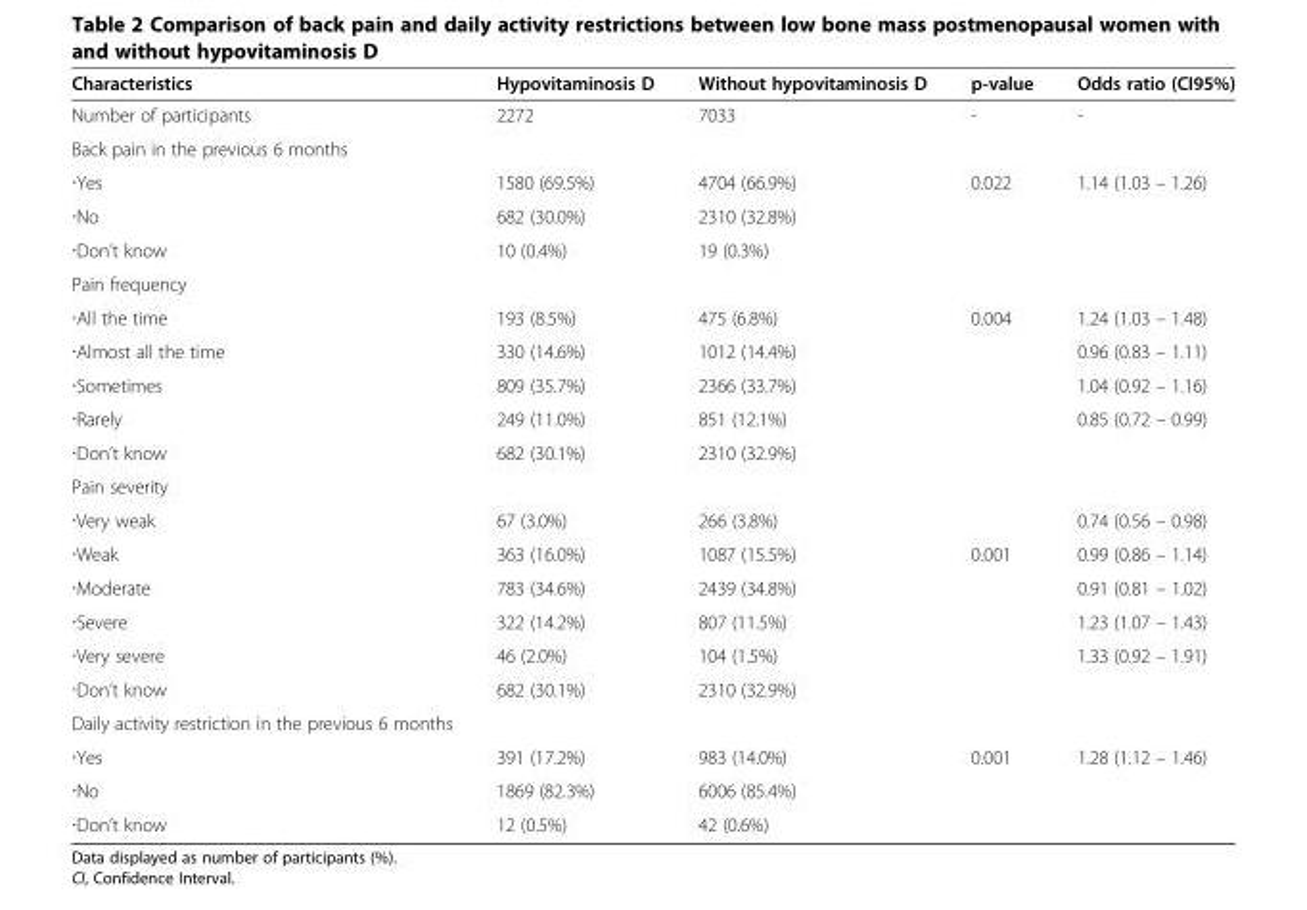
<table><thead><tr><td>Characteristics</td><td>Hypovitaminosis D</td><td>Without hypovitaminosis D</td><td>p-value</td><td>Odds ratio (CI95%)</td></tr></thead><tbody><tr><td>Number of participants</td><td>2272</td><td>7033</td><td>-</td><td>-</td></tr><tr><td colspan="5">Back pain in the previous 6 months</td></tr><tr><td>∙Yes</td><td>1580 (69.5%)</td><td>4704 (66.9%)</td><td>0.022</td><td>1.14 (1.03 – 1.26)</td></tr><tr><td>∙No</td><td>682 (30.0%)</td><td>2310 (32.8%)</td><td></td><td></td></tr><tr><td>∙Don’t know</td><td>10 (0.4%)</td><td>19 (0.3%)</td><td></td><td></td></tr><tr><td colspan="5">Pain frequency</td></tr><tr><td>∙All the time</td><td>193 (8.5%)</td><td>475 (6.8%)</td><td>0.004</td><td>1.24 (1.03 – 1.48)</td></tr><tr><td>∙Almost all the time</td><td>330 (14.6%)</td><td>1012 (14.4%)</td><td></td><td>0.96 (0.83 – 1.11)</td></tr><tr><td>∙Sometimes</td><td>809 (35.7%)</td><td>2366 (33.7%)</td><td></td><td>1.04 (0.92 – 1.16)</td></tr><tr><td>∙Rarely</td><td>249 (11.0%)</td><td>851 (12.1%)</td><td></td><td>0.85 (0.72 – 0.99)</td></tr><tr><td>∙Don’t know</td><td>682 (30.1%)</td><td>2310 (32.9%)</td><td></td><td></td></tr><tr><td colspan="5">Pain severity</td></tr><tr><td>∙Very weak</td><td>67 (3.0%)</td><td>266 (3.8%)</td><td></td><td>0.74 (0.56 – 0.98)</td></tr><tr><td>∙Weak</td><td>363 (16.0%)</td><td>1087 (15.5%)</td><td>0.001</td><td>0.99 (0.86 – 1.14)</td></tr><tr><td>∙Moderate</td><td>783 (34.6%)</td><td>2439 (34.8%)</td><td></td><td>0.91 (0.81 – 1.02)</td></tr><tr><td>∙Severe</td><td>322 (14.2%)</td><td>807 (11.5%)</td><td></td><td>1.23 (1.07 – 1.43)</td></tr><tr><td>∙Very severe</td><td>46 (2.0%)</td><td>104 (1.5%)</td><td></td><td>1.33 (0.92 – 1.91)</td></tr><tr><td>∙Don’t know</td><td>682 (30.1%)</td><td>2310 (32.9%)</td><td></td><td></td></tr><tr><td colspan="5">Daily activity restriction in the previous 6 months</td></tr><tr><td>∙Yes</td><td>391 (17.2%)</td><td>983 (14.0%)</td><td>0.001</td><td>1.28 (1.12 – 1.46)</td></tr><tr><td>∙No</td><td>1869 (82.3%)</td><td>6006 (85.4%)</td><td></td><td></td></tr><tr><td>∙Don’t know</td><td>12 (0.5%)</td><td>42 (0.6%)</td><td></td><td></td></tr></tbody></table>